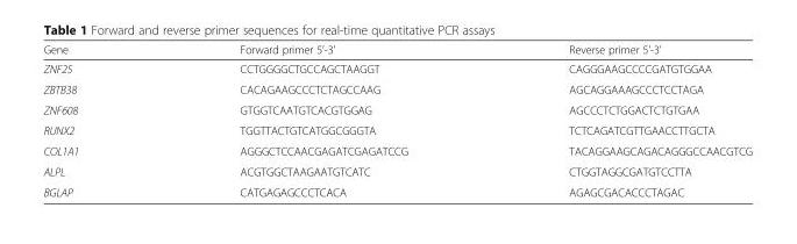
<table><thead><tr><td>Gene</td><td>Forward primer 5’-3’</td><td>Reverse primer 5’-3’</td></tr></thead><tbody><tr><td>ZNF25</td><td>CCTGGGGCTGCCAGCTAAGGT</td><td>CAGGGAAGCCCCGATGTGGAA</td></tr><tr><td>ZBTB38</td><td>CACAGAAGCCCTCTAGCCAAG</td><td>AGCAGGAAAGCCCTCCTAGA</td></tr><tr><td>ZNF608</td><td>GTGGTCAATGTCACGTGGAG</td><td>AGCCCTCTGGACTCTGTGAA</td></tr><tr><td>RUNX2</td><td>TGGTTACTGTCATGGCGGGTA</td><td>TCTCAGATCGTTGAACCTTGCTA</td></tr><tr><td>COL1A1</td><td>AGGGCTCCAACGAGATCGAGATCCG</td><td>TACAGGAAGCAGACAGGGCCAACGTCG</td></tr><tr><td>ALPL</td><td>ACGTGGCTAAGAATGTCATC</td><td>CTGGTAGGCGATGTCCTTA</td></tr><tr><td>BGLAP</td><td>CATGAGAGCCCTCACA</td><td>AGAGCGACACCCTAGAC</td></tr></tbody></table>